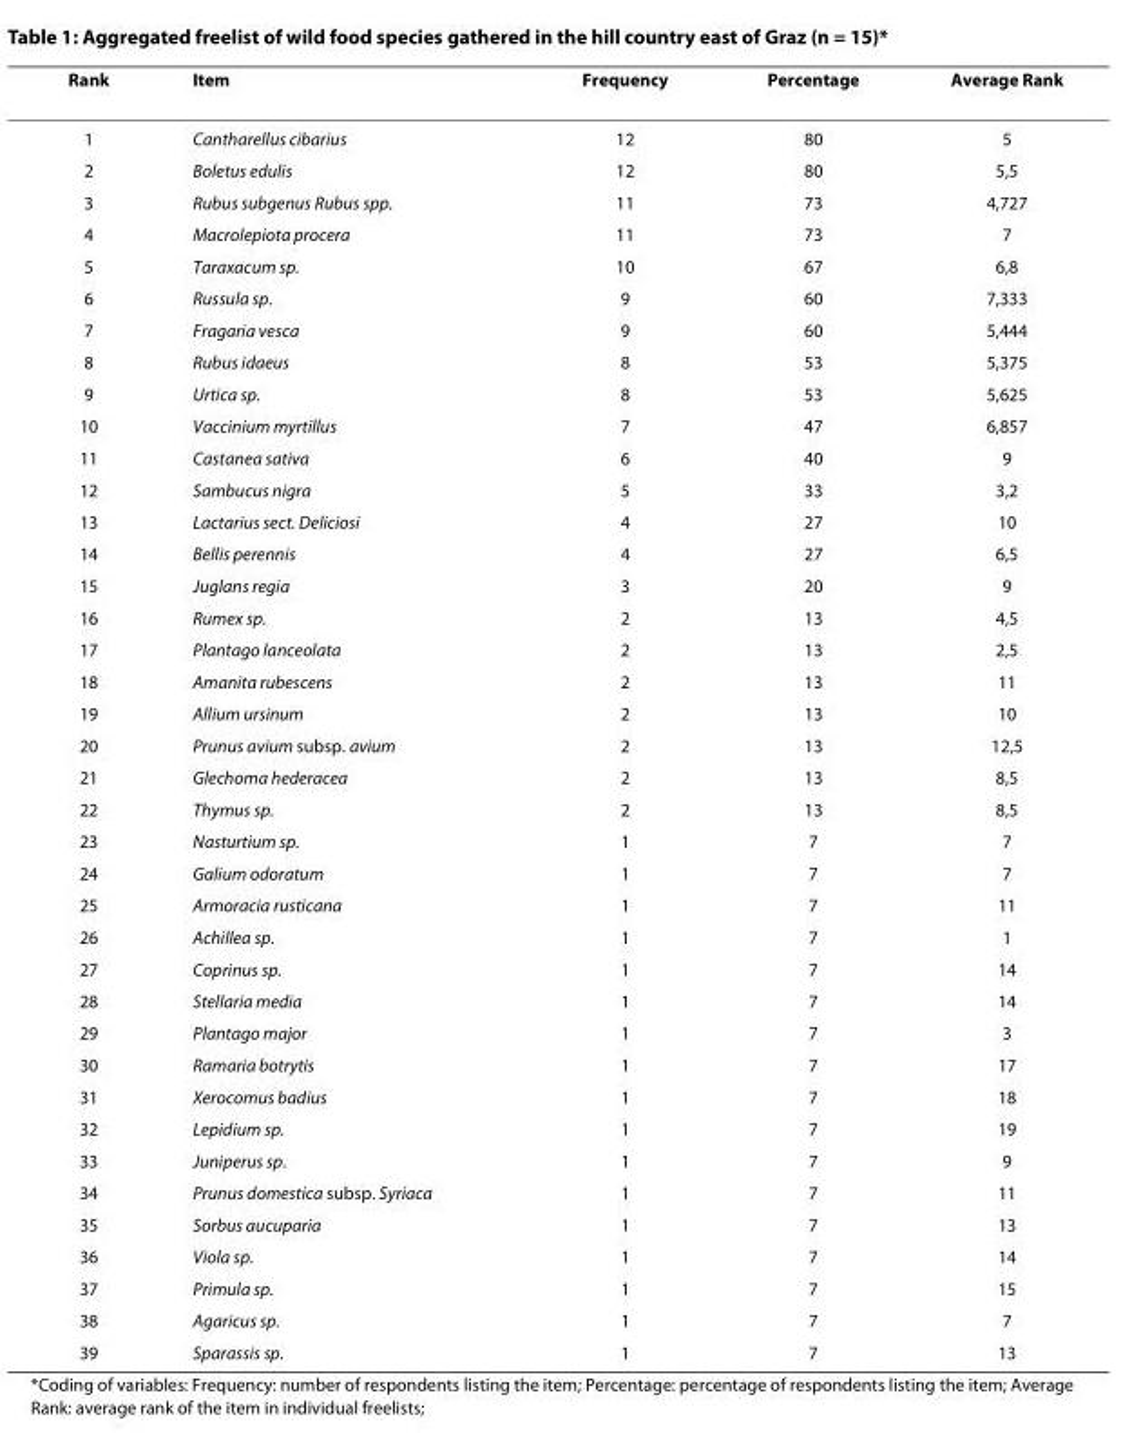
<table><thead><tr><td>Rank</td><td>Item</td><td>Frequency</td><td>Percentage</td><td>Average Rank</td></tr></thead><tbody><tr><td>1</td><td>Cantharellus cibarius</td><td>12</td><td>80</td><td>5</td></tr><tr><td>2</td><td>Boletus edulis</td><td>12</td><td>80</td><td>5,5</td></tr><tr><td>3</td><td>Rubus subgenus Rubus spp.</td><td>11</td><td>73</td><td>4,727</td></tr><tr><td>4</td><td>Macrolepiota procera</td><td>11</td><td>73</td><td>7</td></tr><tr><td>5</td><td>Taraxacum sp.</td><td>10</td><td>67</td><td>6,8</td></tr><tr><td>6</td><td>Russula sp.</td><td>9</td><td>60</td><td>7,333</td></tr><tr><td>7</td><td>Fragaria vesca</td><td>9</td><td>60</td><td>5,444</td></tr><tr><td>8</td><td>Rubus idaeus</td><td>8</td><td>53</td><td>5,375</td></tr><tr><td>9</td><td>Urtica sp.</td><td>8</td><td>53</td><td>5,625</td></tr><tr><td>10</td><td>Vaccinium myrtillus</td><td>7</td><td>47</td><td>6,857</td></tr><tr><td>11</td><td>Castanea sativa</td><td>6</td><td>40</td><td>9</td></tr><tr><td>12</td><td>Sambucus nigra</td><td>5</td><td>33</td><td>3,2</td></tr><tr><td>13</td><td>Lactarius sect. Deliciosi</td><td>4</td><td>27</td><td>10</td></tr><tr><td>14</td><td>Bellis perennis</td><td>4</td><td>27</td><td>6,5</td></tr><tr><td>15</td><td>Juglans regia</td><td>3</td><td>20</td><td>9</td></tr><tr><td>16</td><td>Rumex sp.</td><td>2</td><td>13</td><td>4,5</td></tr><tr><td>17</td><td>Plantago lanceolata</td><td>2</td><td>13</td><td>2,5</td></tr><tr><td>18</td><td>Amanita rubescens</td><td>2</td><td>13</td><td>11</td></tr><tr><td>19</td><td>Allium ursinum</td><td>2</td><td>13</td><td>10</td></tr><tr><td>20</td><td>Prunus avium subsp. avium</td><td>2</td><td>13</td><td>12,5</td></tr><tr><td>21</td><td>Glechoma hederacea</td><td>2</td><td>13</td><td>8,5</td></tr><tr><td>22</td><td>Thymus sp.</td><td>2</td><td>13</td><td>8,5</td></tr><tr><td>23</td><td>Nasturtium sp.</td><td>1</td><td>7</td><td>7</td></tr><tr><td>24</td><td>Galium odoratum</td><td>1</td><td>7</td><td>7</td></tr><tr><td>25</td><td>Armoracia rusticana</td><td>1</td><td>7</td><td>11</td></tr><tr><td>26</td><td>Achillea sp.</td><td>1</td><td>7</td><td>1</td></tr><tr><td>27</td><td>Coprinus sp.</td><td>1</td><td>7</td><td>14</td></tr><tr><td>28</td><td>Stellaria media</td><td>1</td><td>7</td><td>14</td></tr><tr><td>29</td><td>Plantago major</td><td>1</td><td>7</td><td>3</td></tr><tr><td>30</td><td>Ramaria botrytis</td><td>1</td><td>7</td><td>17</td></tr><tr><td>31</td><td>Xerocomus badius</td><td>1</td><td>7</td><td>18</td></tr><tr><td>32</td><td>Lepidium sp.</td><td>1</td><td>7</td><td>19</td></tr><tr><td>33</td><td>Juniperus sp.</td><td>1</td><td>7</td><td>9</td></tr><tr><td>34</td><td>Prunus domestica subsp. Syriaca</td><td>1</td><td>7</td><td>11</td></tr><tr><td>35</td><td>Sorbus aucuparia</td><td>1</td><td>7</td><td>13</td></tr><tr><td>36</td><td>Viola sp.</td><td>1</td><td>7</td><td>14</td></tr><tr><td>37</td><td>Primula sp.</td><td>1</td><td>7</td><td>15</td></tr><tr><td>38</td><td>Agaricus sp.</td><td>1</td><td>7</td><td>7</td></tr><tr><td>39</td><td>Sparassis sp.</td><td>1</td><td>7</td><td>13</td></tr></tbody></table>